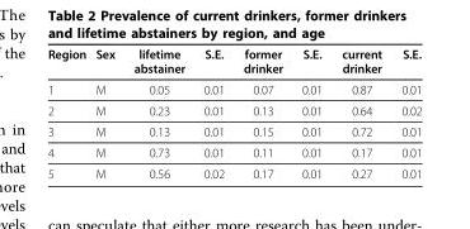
<table><thead><tr><td>Region</td><td>Sex</td><td>lifetime abstainer</td><td>S.E.</td><td>former drinker</td><td>S.E.</td><td>current drinker</td><td>S.E.</td></tr></thead><tbody><tr><td>1</td><td>M</td><td>0.05</td><td>0.01</td><td>0.07</td><td>0.01</td><td>0.87</td><td>0.01</td></tr><tr><td>2</td><td>M</td><td>0.23</td><td>0.01</td><td>0.13</td><td>0.01</td><td>0.64</td><td>0.02</td></tr><tr><td>3</td><td>M</td><td>0.13</td><td>0.01</td><td>0.15</td><td>0.01</td><td>0.72</td><td>0.01</td></tr><tr><td>4</td><td>M</td><td>0.73</td><td>0.01</td><td>0.11</td><td>0.01</td><td>0.17</td><td>0.01</td></tr><tr><td>5</td><td>M</td><td>0.56</td><td>0.02</td><td>0.17</td><td>0.01</td><td>0.27</td><td>0.01</td></tr></tbody></table>